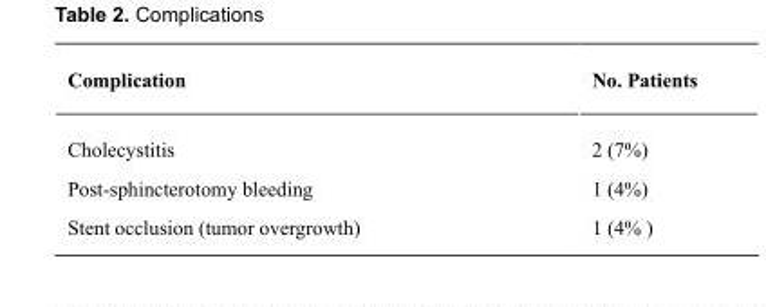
<table><thead><tr><td>Complication</td><td>No. Patients</td></tr></thead><tbody><tr><td>Cholecystitis</td><td>2 (7%)</td></tr><tr><td>Post-sphincterotomy bleeding</td><td>1 (4%)</td></tr><tr><td>Stent occlusion (tumor overgrowth)</td><td>1 (4% )</td></tr></tbody></table>